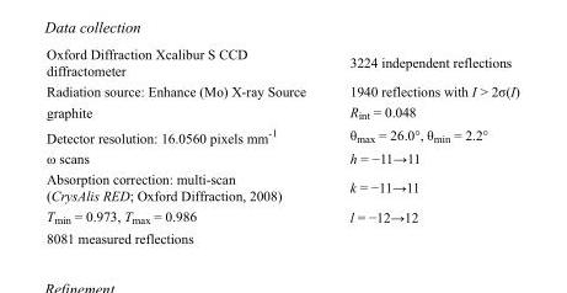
<table><tbody><tr><td>Oxford Diffraction Xcalibur S CCD diffractometer</td><td>3224 independent reflections</td></tr><tr><td>Radiation source: Enhance (Mo) X-ray Source</td><td>1940 reflections with I &gt; 2σ(I)</td></tr><tr><td>graphite</td><td>R<sub>int</sub> = 0.048</td></tr><tr><td>Detector resolution: 16.0560 pixels mm<sup>-1</sup></td><td>θ<sub>max</sub> = 26.0°, θ<sub>min</sub> = 2.2°</td></tr><tr><td>ω scans</td><td>h = −11→11</td></tr><tr><td>Absorption correction: multi-scan (CrysAlis RED; Oxford Diffraction, 2008)</td><td>k = −11→11</td></tr><tr><td>T<sub>min</sub> = 0.973, T<sub>max</sub> = 0.986</td><td>l = −12→12</td></tr><tr><td>8081 measured reflections</td><td></td></tr></tbody></table>